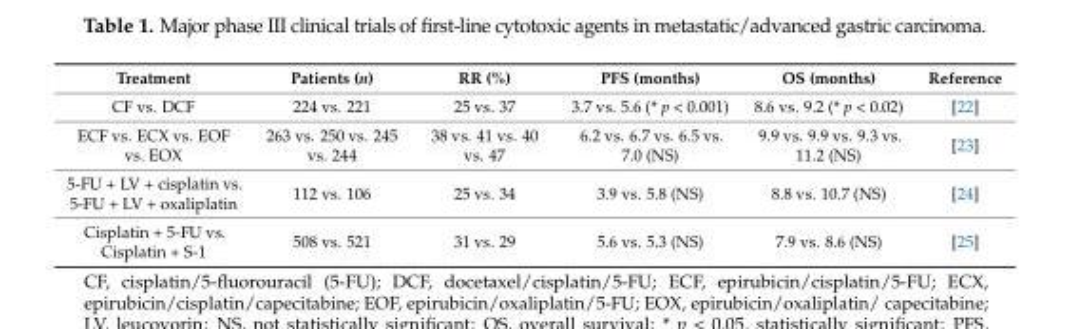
<table><thead><tr><td>Treatment</td><td>Patients (n)</td><td>RR (%)</td><td>PFS (months)</td><td>OS (months)</td><td>Reference</td></tr></thead><tbody><tr><td>CF vs. DCF</td><td>224 vs. 221</td><td>25 vs. 37</td><td>3.7 vs. 5.6 (* p &lt; 0.001)</td><td>8.6 vs. 9.2 (* p &lt; 0.02)</td><td>[22]</td></tr><tr><td>ECF vs. ECX vs. EOF vs. EOX</td><td>263 vs. 250 vs. 245 vs. 244</td><td>38 vs. 41 vs. 40 vs. 47</td><td>6.2 vs. 6.7 vs. 6.5 vs. 7.0 (NS)</td><td>9.9 vs. 9.9 vs. 9.3 vs. 11.2 (NS)</td><td>[23]</td></tr><tr><td>5-FU + LV + cisplatin vs. 5-FU + LV + oxaliplatin</td><td>112 vs. 106</td><td>25 vs. 34</td><td>3.9 vs. 5.8 (NS)</td><td>8.8 vs. 10.7 (NS)</td><td>[24]</td></tr><tr><td>Cisplatin + 5-FU vs. Cisplatin + S-1</td><td>508 vs. 521</td><td>31 vs. 29</td><td>5.6 vs. 5.3 (NS)</td><td>7.9 vs. 8.6 (NS)</td><td>[25]</td></tr></tbody></table>